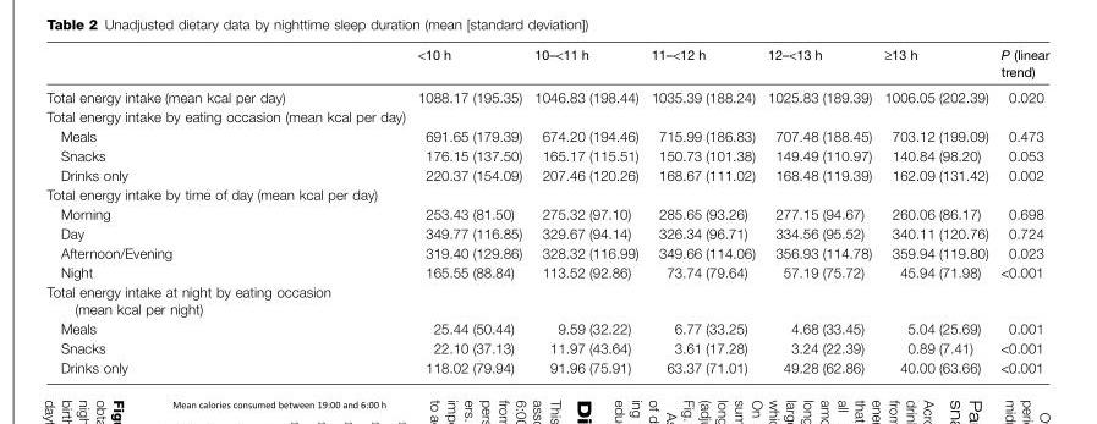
<table><thead><tr><td></td><td>&lt;10 h</td><td>10–&lt;11 h</td><td>11–&lt;12 h</td><td>12–&lt;13 h</td><td>≥13 h</td><td>P (linear trend)</td></tr></thead><tbody><tr><td>Total energy intake (mean kcal per day)</td><td>1088.17 (195.35)</td><td>1046.83 (198.44)</td><td>1035.39 (188.24)</td><td>1025.83 (189.39)</td><td>1006.05 (202.39)</td><td>0.020</td></tr><tr><td colspan="7">Total energy intake by eating occasion (mean kcal per day)</td></tr><tr><td>Meals</td><td>691.65 (179.39)</td><td>674.20 (194.46)</td><td>715.99 (186.83)</td><td>707.48 (188.45)</td><td>703.12 (199.09)</td><td>0.473</td></tr><tr><td>Snacks</td><td>176.15 (137.50)</td><td>165.17 (115.51)</td><td>150.73 (101.38)</td><td>149.49 (110.97)</td><td>140.84 (98.20)</td><td>0.053</td></tr><tr><td>Drinks only</td><td>220.37 (154.09)</td><td>207.46 (120.26)</td><td>168.67 (111.02)</td><td>168.48 (119.39)</td><td>162.09 (131.42)</td><td>0.002</td></tr><tr><td colspan="7">Total energy intake by time of day (mean kcal per day)</td></tr><tr><td>Morning</td><td>253.43 (81.50)</td><td>275.32 (97.10)</td><td>285.65 (93.26)</td><td>277.15 (94.67)</td><td>260.06 (86.17)</td><td>0.698</td></tr><tr><td>Day</td><td>349.77 (116.85)</td><td>329.67 (94.14)</td><td>326.34 (96.71)</td><td>334.56 (95.52)</td><td>340.11 (120.76)</td><td>0.724</td></tr><tr><td>Afternoon/Evening</td><td>319.40 (129.86)</td><td>328.32 (116.99)</td><td>349.66 (114.06)</td><td>356.93 (114.78)</td><td>359.94 (119.80)</td><td>0.023</td></tr><tr><td>Night</td><td>165.55 (88.84)</td><td>113.52 (92.86)</td><td>73.74 (79.64)</td><td>57.19 (75.72)</td><td>45.94 (71.98)</td><td>&lt;0.001</td></tr><tr><td colspan="7">Total energy intake at night by eating occasion (mean kcal per night)</td></tr><tr><td>Meals</td><td>25.44 (50.44)</td><td>9.59 (32.22)</td><td>6.77 (33.25)</td><td>4.68 (33.45)</td><td>5.04 (25.69)</td><td>0.001</td></tr><tr><td>Snacks</td><td>22.10 (37.13)</td><td>11.97 (43.64)</td><td>3.61 (17.28)</td><td>3.24 (22.39)</td><td>0.89 (7.41)</td><td>&lt;0.001</td></tr><tr><td>Drinks only</td><td>118.02 (79.94)</td><td>91.96 (75.91)</td><td>63.37 (71.01)</td><td>49.28 (62.86)</td><td>40.00 (63.66)</td><td>&lt;0.001</td></tr></tbody></table>